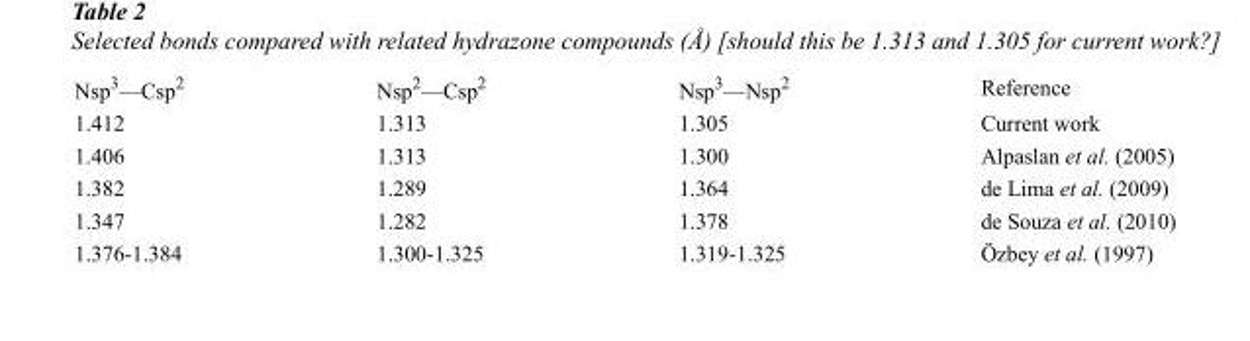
<table><tbody><tr><td>Nsp<sup>3</sup>—Csp<sup>2</sup></td><td>Nsp<sup>2</sup>—Csp<sup>2</sup></td><td>Nsp<sup>3</sup>—Nsp<sup>2</sup></td><td>Reference</td></tr><tr><td>1.412</td><td>1.313</td><td>1.305</td><td>Current work</td></tr><tr><td>1.406</td><td>1.313</td><td>1.300</td><td>Alpaslan et al. (2005)</td></tr><tr><td>1.382</td><td>1.289</td><td>1.364</td><td>de Lima et al. (2009)</td></tr><tr><td>1.347</td><td>1.282</td><td>1.378</td><td>de Souza et al. (2010)</td></tr><tr><td>1.376-1.384</td><td>1.300-1.325</td><td>1.319-1.325</td><td>Özbey et al. (1997)</td></tr></tbody></table>